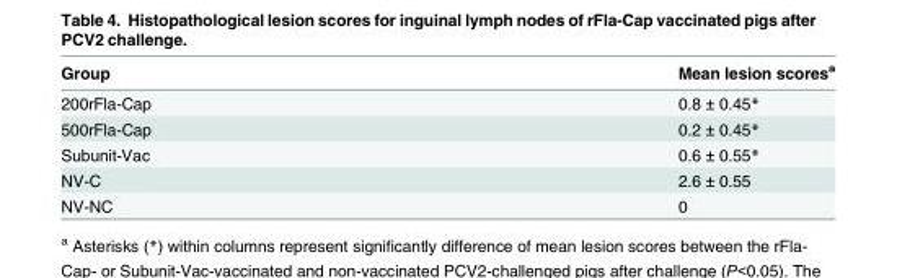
<table><thead><tr><td>Group</td><td>Mean lesion scores<sup>a</sup></td></tr></thead><tbody><tr><td>200rFla-Cap</td><td>0.8 ± 0.45*</td></tr><tr><td>500rFla-Cap</td><td>0.2 ± 0.45*</td></tr><tr><td>Subunit-Vac</td><td>0.6 ± 0.55*</td></tr><tr><td>NV-C</td><td>2.6 ± 0.55</td></tr><tr><td>NV-NC</td><td>0</td></tr></tbody></table>